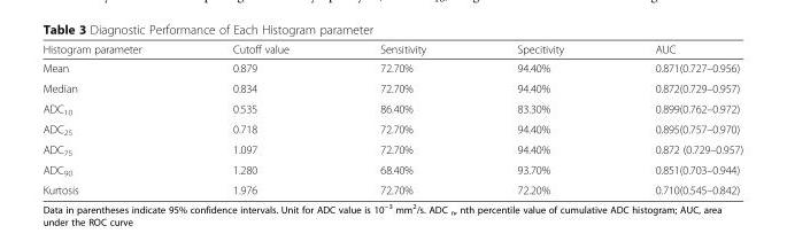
<table><thead><tr><td>Histogram parameter</td><td>Cutoff value</td><td>Sensitivity</td><td>Specitivity</td><td>AUC</td></tr></thead><tbody><tr><td>Mean</td><td>0.879</td><td>72.70%</td><td>94.40%</td><td>0.871(0.727–0.956)</td></tr><tr><td>Median</td><td>0.834</td><td>72.70%</td><td>94.40%</td><td>0.872(0.729–0.957)</td></tr><tr><td>ADC<sub>10</sub></td><td>0.535</td><td>86.40%</td><td>83.30%</td><td>0.899(0.762–0.972)</td></tr><tr><td>ADC<sub>25</sub></td><td>0.718</td><td>72.70%</td><td>94.40%</td><td>0.895(0.757–0.970)</td></tr><tr><td>ADC<sub>75</sub></td><td>1.097</td><td>72.70%</td><td>94.40%</td><td>0.872 (0.729–0.957)</td></tr><tr><td>ADC<sub>90</sub></td><td>1.280</td><td>68.40%</td><td>93.70%</td><td>0.851(0.703–0.944)</td></tr><tr><td>Kurtosis</td><td>1.976</td><td>72.70%</td><td>72.20%</td><td>0.710(0.545–0.842)</td></tr></tbody></table>